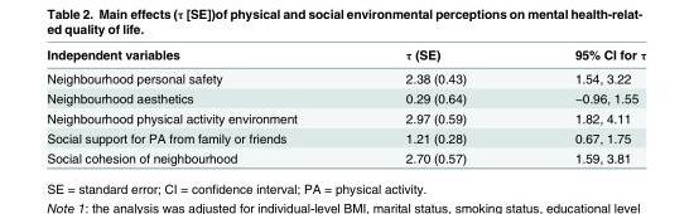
<table><thead><tr><td>Independent variables</td><td>τ (SE)</td><td>95% CI for τ</td></tr></thead><tbody><tr><td>Neighbourhood personal safety</td><td>2.38 (0.43)</td><td>1.54, 3.22</td></tr><tr><td>Neighbourhood aesthetics</td><td>0.29 (0.64)</td><td>−0.96, 1.55</td></tr><tr><td>Neighbourhood physical activity environment</td><td>2.97 (0.59)</td><td>1.82, 4.11</td></tr><tr><td>Social support for PA from family or friends</td><td>1.21 (0.28)</td><td>0.67, 1.75</td></tr><tr><td>Social cohesion of neighbourhood</td><td>2.70 (0.57)</td><td>1.59, 3.81</td></tr></tbody></table>